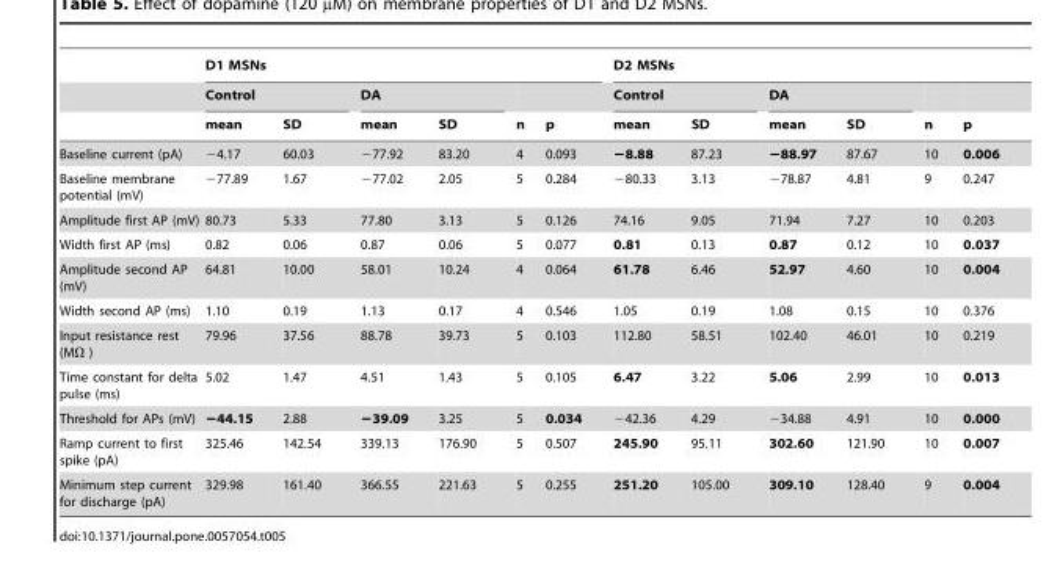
<table><thead><tr><td rowspan="3"></td><td colspan="6">D1 MSNs</td><td colspan="6">D2 MSNs</td></tr><tr><td colspan="2">Control</td><td colspan="2">DA</td><td rowspan="2">n</td><td rowspan="2">p</td><td colspan="2">Control</td><td colspan="2">DA</td><td rowspan="2">n</td><td rowspan="2">p</td></tr><tr><td>mean</td><td>SD</td><td>mean</td><td>SD</td><td>mean</td><td>SD</td><td>mean</td><td>SD</td></tr></thead><tbody><tr><td>Baseline current (pA)</td><td>−4.17</td><td>60.03</td><td>−77.92</td><td>83.20</td><td>4</td><td>0.093</td><td>−8.88</td><td>87.23</td><td>−88.97</td><td>87.67</td><td>10</td><td>0.006</td></tr><tr><td>Baseline membrane potential (mV)</td><td>−77.89</td><td>1.67</td><td>−77.02</td><td>2.05</td><td>5</td><td>0.284</td><td>−80.33</td><td>3.13</td><td>−78.87</td><td>4.81</td><td>9</td><td>0.247</td></tr><tr><td>Amplitude first AP (mV)</td><td>80.73</td><td>5.33</td><td>77.80</td><td>3.13</td><td>5</td><td>0.126</td><td>74.16</td><td>9.05</td><td>71.94</td><td>7.27</td><td>10</td><td>0.203</td></tr><tr><td>Width first AP (ms)</td><td>0.82</td><td>0.06</td><td>0.87</td><td>0.06</td><td>5</td><td>0.077</td><td>0.81</td><td>0.13</td><td>0.87</td><td>0.12</td><td>10</td><td>0.037</td></tr><tr><td>Amplitude second AP (mV)</td><td>64.81</td><td>10.00</td><td>58.01</td><td>10.24</td><td>4</td><td>0.064</td><td>61.78</td><td>6.46</td><td>52.97</td><td>4.60</td><td>10</td><td>0.004</td></tr><tr><td>Width second AP (ms)</td><td>1.10</td><td>0.19</td><td>1.13</td><td>0.17</td><td>4</td><td>0.546</td><td>1.05</td><td>0.19</td><td>1.08</td><td>0.15</td><td>10</td><td>0.376</td></tr><tr><td>Input resistance rest (MΩ )</td><td>79.96</td><td>37.56</td><td>88.78</td><td>39.73</td><td>5</td><td>0.103</td><td>112.80</td><td>58.51</td><td>102.40</td><td>46.01</td><td>10</td><td>0.219</td></tr><tr><td>Time constant for delta pulse (ms)</td><td>5.02</td><td>1.47</td><td>4.51</td><td>1.43</td><td>5</td><td>0.105</td><td>6.47</td><td>3.22</td><td>5.06</td><td>2.99</td><td>10</td><td>0.013</td></tr><tr><td>Threshold for APs (mV)</td><td>−44.15</td><td>2.88</td><td>−39.09</td><td>3.25</td><td>5</td><td>0.034</td><td>−42.36</td><td>4.29</td><td>−34.88</td><td>4.91</td><td>10</td><td>0.000</td></tr><tr><td>Ramp current to first spike (pA)</td><td>325.46</td><td>142.54</td><td>339.13</td><td>176.90</td><td>5</td><td>0.507</td><td>245.90</td><td>95.11</td><td>302.60</td><td>121.90</td><td>10</td><td>0.007</td></tr><tr><td>Minimum step current for discharge (pA)</td><td>329.98</td><td>161.40</td><td>366.55</td><td>221.63</td><td>5</td><td>0.255</td><td>251.20</td><td>105.00</td><td>309.10</td><td>128.40</td><td>9</td><td>0.004</td></tr></tbody></table>